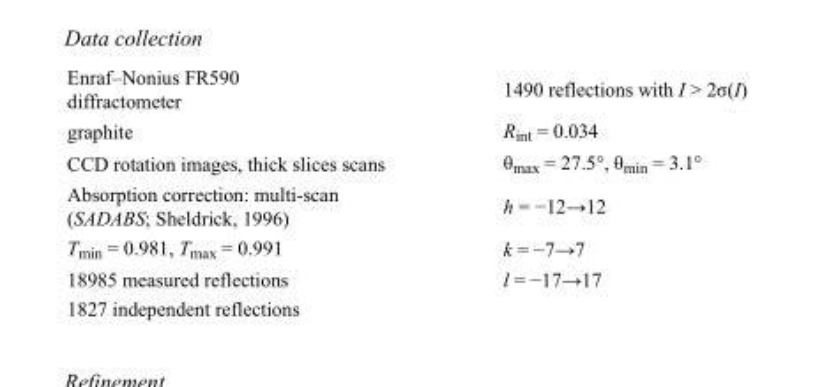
<table><tbody><tr><td>Enraf–Nonius FR590 diffractometer</td><td>1490 reflections with I &gt; 2σ(I)</td></tr><tr><td>graphite</td><td>R<sub>int</sub> = 0.034</td></tr><tr><td>CCD rotation images, thick slices scans</td><td>θ<sub>max</sub> = 27.5°, θ<sub>min</sub> = 3.1°</td></tr><tr><td>Absorption correction: multi-scan (SADABS; Sheldrick, 1996)</td><td>h = −12→12</td></tr><tr><td>T<sub>min</sub> = 0.981, T<sub>max</sub> = 0.991</td><td>k = −7→7</td></tr><tr><td>18985 measured reflections</td><td>l = −17→17</td></tr><tr><td>1827 independent reflections</td><td></td></tr></tbody></table>